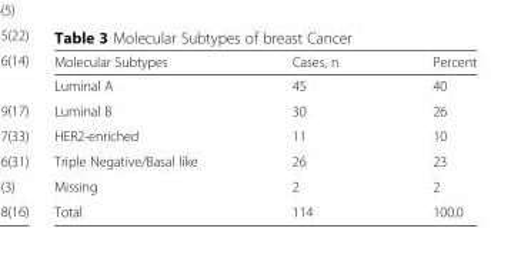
<table><thead><tr><td>Molecular Subtypes</td><td>Cases, n</td><td>Percent</td></tr></thead><tbody><tr><td>Luminal A</td><td>45</td><td>40</td></tr><tr><td>Luminal B</td><td>30</td><td>26</td></tr><tr><td>HER2-enriched</td><td>11</td><td>10</td></tr><tr><td>Triple Negative/Basal like</td><td>26</td><td>23</td></tr><tr><td>Missing</td><td>2</td><td>2</td></tr><tr><td>Total</td><td>114</td><td>100.0</td></tr></tbody></table>